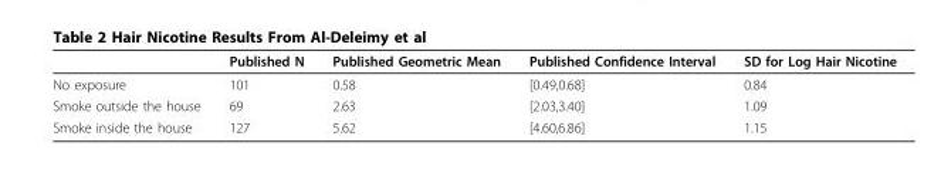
<table><thead><tr><td></td><td>Published N</td><td>Published Geometric Mean</td><td>Published Confidence Interval</td><td>SD for Log Hair Nicotine</td></tr></thead><tbody><tr><td>No exposure</td><td>101</td><td>0.58</td><td>[0.49,0.68]</td><td>0.84</td></tr><tr><td>Smoke outside the house</td><td>69</td><td>2.63</td><td>[2.03,3.40]</td><td>1.09</td></tr><tr><td>Smoke inside the house</td><td>127</td><td>5.62</td><td>[4.60,6.86]</td><td>1.15</td></tr></tbody></table>